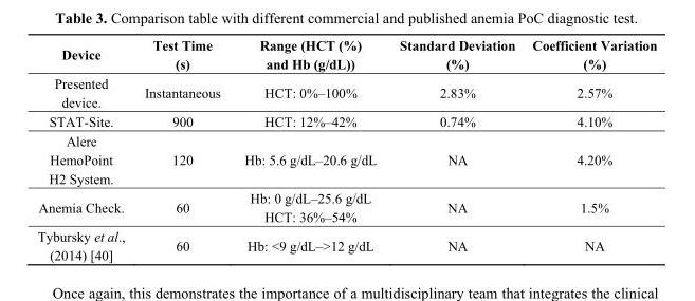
<table><thead><tr><td>Device</td><td>Test Time (s)</td><td>Range (HCT (%) and Hb (g/dL))</td><td>Standard Deviation (%)</td><td>Coefficient Variation (%)</td></tr></thead><tbody><tr><td>Presented device.</td><td>Instantaneous</td><td>HCT: 0%–100%</td><td>2.83%</td><td>2.57%</td></tr><tr><td>STAT-Site.</td><td>900</td><td>HCT: 12%–42%</td><td>0.74%</td><td>4.10%</td></tr><tr><td>Alere HemoPoint H2 System.</td><td>120</td><td>Hb: 5.6 g/dL–20.6 g/dL</td><td>NA</td><td>4.20%</td></tr><tr><td>Anemia Check.</td><td>60</td><td>Hb: 0 g/dL–25.6 g/dL HCT: 36%–54%</td><td>NA</td><td>1.5%</td></tr><tr><td>Tybursky et al., (2014) [40]</td><td>60</td><td>Hb: &lt;9 g/dL–&gt;12 g/dL</td><td>NA</td><td>NA</td></tr></tbody></table>